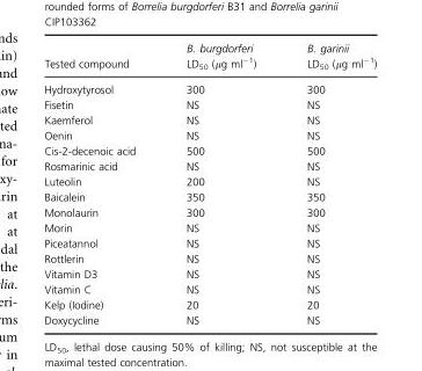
<table><thead><tr><td rowspan="2">Tested compound</td><td rowspan="2">B. burgdorferi LD<sub>50</sub> (μg ml<sup>−1</sup>)</td><td rowspan="2">B. garinii LD<sub>50</sub> (μg ml<sup>−1</sup>)</td></tr><tr></tr></thead><tbody><tr><td>Hydroxytyrosol</td><td>300</td><td>300</td></tr><tr><td>Fisetin</td><td>NS</td><td>NS</td></tr><tr><td>Kaemferol</td><td>NS</td><td>NS</td></tr><tr><td>Oenin</td><td>NS</td><td>NS</td></tr><tr><td>Cis-2-decenoic acid</td><td>500</td><td>500</td></tr><tr><td>Rosmarinic acid</td><td>NS</td><td>NS</td></tr><tr><td>Luteolin</td><td>200</td><td>NS</td></tr><tr><td>Baicalein</td><td>350</td><td>350</td></tr><tr><td>Monolaurin</td><td>300</td><td>300</td></tr><tr><td>Morin</td><td>NS</td><td>NS</td></tr><tr><td>Piceatannol</td><td>NS</td><td>NS</td></tr><tr><td>Rottlerin</td><td>NS</td><td>NS</td></tr><tr><td>Vitamin D3</td><td>NS</td><td>NS</td></tr><tr><td>Vitamin C</td><td>NS</td><td>NS</td></tr><tr><td>Kelp (Iodine)</td><td>20</td><td>20</td></tr><tr><td>Doxycycline</td><td>NS</td><td>NS</td></tr></tbody></table>